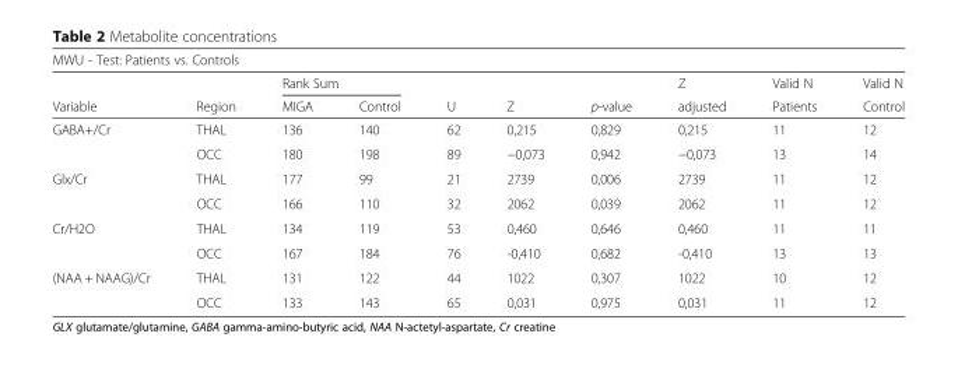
<table><thead><tr><td colspan="10">MWU - Test: Patients vs. Controls</td></tr><tr><td rowspan="2">Variable</td><td rowspan="2">Region</td><td colspan="2">Rank Sum</td><td rowspan="2">U</td><td rowspan="2">Z</td><td rowspan="2">p-value</td><td rowspan="2">Z adjusted</td><td rowspan="2">Valid N Patients</td><td rowspan="2">Valid N Control</td></tr><tr><td>MIGA</td><td>Control</td></tr></thead><tbody><tr><td rowspan="2">GABA+/Cr</td><td>THAL</td><td>136</td><td>140</td><td>62</td><td>0,215</td><td>0,829</td><td>0,215</td><td>11</td><td>12</td></tr><tr><td>OCC</td><td>180</td><td>198</td><td>89</td><td>−0,073</td><td>0,942</td><td>−0,073</td><td>13</td><td>14</td></tr><tr><td rowspan="2">Glx/Cr</td><td>THAL</td><td>177</td><td>99</td><td>21</td><td>2739</td><td>0,006</td><td>2739</td><td>11</td><td>12</td></tr><tr><td>OCC</td><td>166</td><td>110</td><td>32</td><td>2062</td><td>0,039</td><td>2062</td><td>11</td><td>12</td></tr><tr><td rowspan="2">Cr/H2O</td><td>THAL</td><td>134</td><td>119</td><td>53</td><td>0,460</td><td>0,646</td><td>0,460</td><td>11</td><td>11</td></tr><tr><td>OCC</td><td>167</td><td>184</td><td>76</td><td>-0,410</td><td>0,682</td><td>-0,410</td><td>13</td><td>13</td></tr><tr><td rowspan="2">(NAA + NAAG)/Cr</td><td>THAL</td><td>131</td><td>122</td><td>44</td><td>1022</td><td>0,307</td><td>1022</td><td>10</td><td>12</td></tr><tr><td>OCC</td><td>133</td><td>143</td><td>65</td><td>0,031</td><td>0,975</td><td>0,031</td><td>11</td><td>12</td></tr></tbody></table>